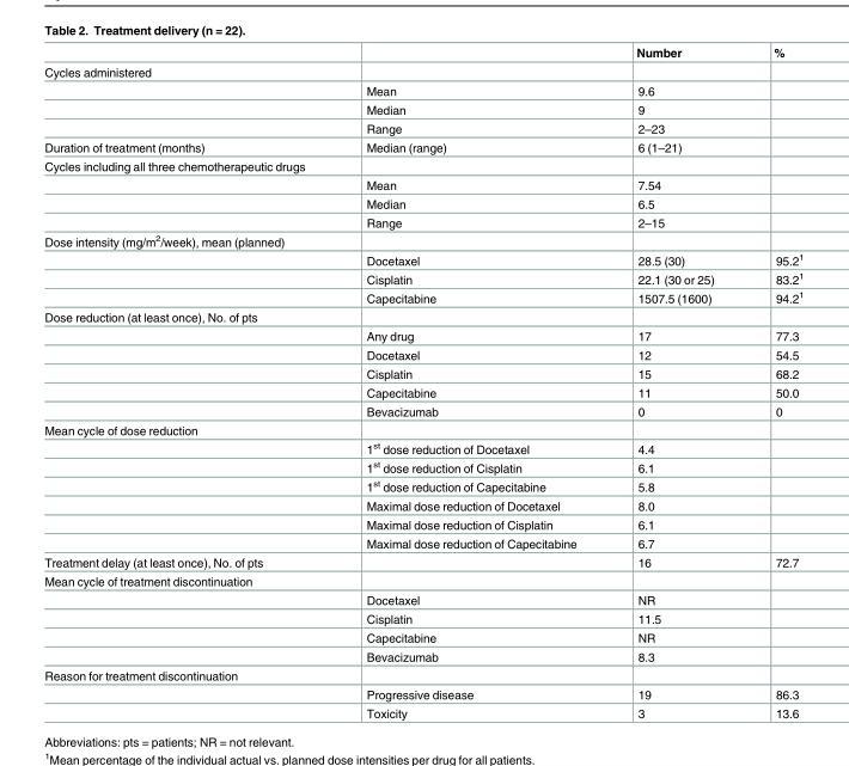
<table><thead><tr><td></td><td></td><td>Number</td><td>%</td></tr></thead><tbody><tr><td colspan="4">Cycles administered</td></tr><tr><td></td><td>Mean</td><td>9.6</td><td></td></tr><tr><td></td><td>Median</td><td>9</td><td></td></tr><tr><td></td><td>Range</td><td>2–23</td><td></td></tr><tr><td>Duration of treatment (months)</td><td>Median (range)</td><td>6 (1–21)</td><td></td></tr><tr><td colspan="4">Cycles including all three chemotherapeutic drugs</td></tr><tr><td></td><td>Mean</td><td>7.54</td><td></td></tr><tr><td></td><td>Median</td><td>6.5</td><td></td></tr><tr><td></td><td>Range</td><td>2–15</td><td></td></tr><tr><td colspan="4">Dose intensity (mg/m<sup>2</sup>/week), mean (planned)</td></tr><tr><td></td><td>Docetaxel</td><td>28.5 (30)</td><td>95.2<sup>1</sup></td></tr><tr><td></td><td>Cisplatin</td><td>22.1 (30 or 25)</td><td>83.2<sup>1</sup></td></tr><tr><td></td><td>Capecitabine</td><td>1507.5 (1600)</td><td>94.2<sup>1</sup></td></tr><tr><td colspan="4">Dose reduction (at least once), No. of pts</td></tr><tr><td></td><td>Any drug</td><td>17</td><td>77.3</td></tr><tr><td></td><td>Docetaxel</td><td>12</td><td>54.5</td></tr><tr><td></td><td>Cisplatin</td><td>15</td><td>68.2</td></tr><tr><td></td><td>Capecitabine</td><td>11</td><td>50.0</td></tr><tr><td></td><td>Bevacizumab</td><td>0</td><td>0</td></tr><tr><td colspan="4">Mean cycle of dose reduction</td></tr><tr><td></td><td>1<sup>st</sup> dose reduction of Docetaxel</td><td>4.4</td><td></td></tr><tr><td></td><td>1<sup>st</sup> dose reduction of Cisplatin</td><td>6.1</td><td></td></tr><tr><td></td><td>1<sup>st</sup> dose reduction of Capecitabine</td><td>5.8</td><td></td></tr><tr><td></td><td>Maximal dose reduction of Docetaxel</td><td>8.0</td><td></td></tr><tr><td></td><td>Maximal dose reduction of Cisplatin</td><td>6.1</td><td></td></tr><tr><td></td><td>Maximal dose reduction of Capecitabine</td><td>6.7</td><td></td></tr><tr><td>Treatment delay (at least once), No. of pts</td><td></td><td>16</td><td>72.7</td></tr><tr><td colspan="4">Mean cycle of treatment discontinuation</td></tr><tr><td></td><td>Docetaxel</td><td>NR</td><td></td></tr><tr><td></td><td>Cisplatin</td><td>11.5</td><td></td></tr><tr><td></td><td>Capecitabine</td><td>NR</td><td></td></tr><tr><td></td><td>Bevacizumab</td><td>8.3</td><td></td></tr><tr><td colspan="4">Reason for treatment discontinuation</td></tr><tr><td></td><td>Progressive disease</td><td>19</td><td>86.3</td></tr><tr><td></td><td>Toxicity</td><td>3</td><td>13.6</td></tr></tbody></table>